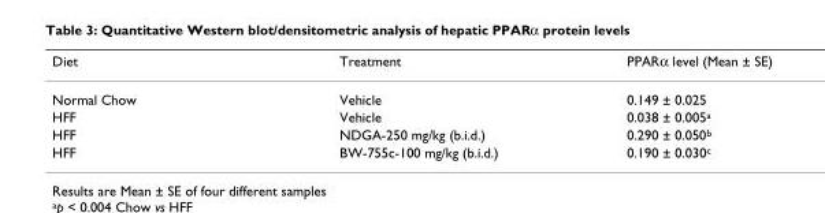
<table><thead><tr><td>Diet</td><td>Treatment</td><td>PPARα level (Mean ± SE)</td></tr></thead><tbody><tr><td>Normal Chow</td><td>Vehicle</td><td>0.149 ± 0.025</td></tr><tr><td>HFF</td><td>Vehicle</td><td>0.038 ± 0.005<sup>a</sup></td></tr><tr><td>HFF</td><td>NDGA-250 mg/kg (b.i.d.)</td><td>0.290 ± 0.050<sup>b</sup></td></tr><tr><td>HFF</td><td>BW-755c-100 mg/kg (b.i.d.)</td><td>0.190 ± 0.030<sup>c</sup></td></tr></tbody></table>